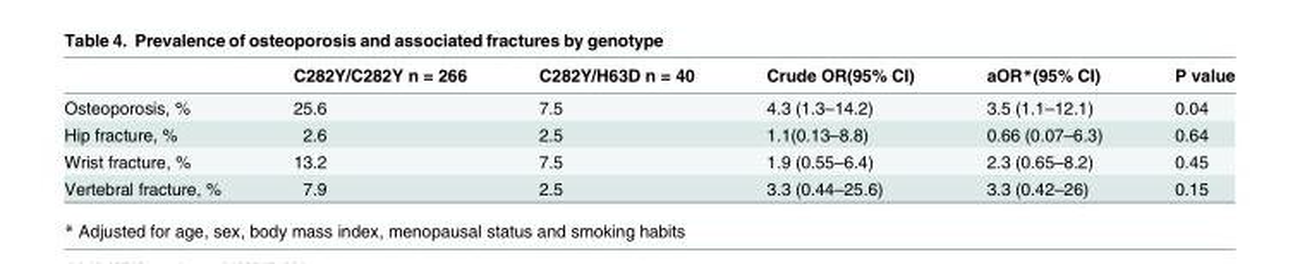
<table><thead><tr><td></td><td>C282Y/C282Y n = 266</td><td>C282Y/H63D n = 40</td><td>Crude OR(95% CI)</td><td>aOR*(95% CI)</td><td>P value</td></tr></thead><tbody><tr><td>Osteoporosis, %</td><td>25.6</td><td>7.5</td><td>4.3 (1.3–14.2)</td><td>3.5 (1.1–12.1)</td><td>0.04</td></tr><tr><td>Hip fracture, %</td><td>2.6</td><td>2.5</td><td>1.1(0.13–8.8)</td><td>0.66 (0.07–6.3)</td><td>0.64</td></tr><tr><td>Wrist fracture, %</td><td>13.2</td><td>7.5</td><td>1.9 (0.55–6.4)</td><td>2.3 (0.65–8.2)</td><td>0.45</td></tr><tr><td>Vertebral fracture, %</td><td>7.9</td><td>2.5</td><td>3.3 (0.44–25.6)</td><td>3.3 (0.42–26)</td><td>0.15</td></tr></tbody></table>